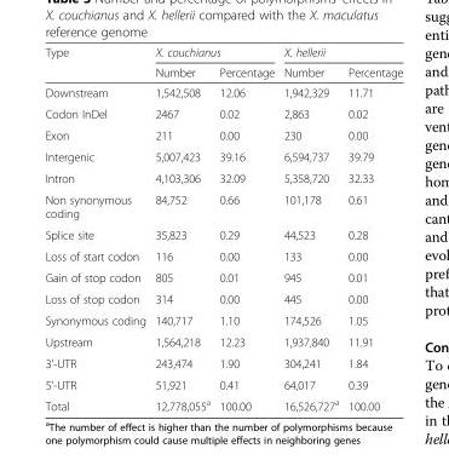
<table><thead><tr><td rowspan="2">Type</td><td colspan="2">X. couchianus</td><td colspan="2">X. hellerii</td></tr><tr><td>Number</td><td>Percentage</td><td>Number</td><td>Percentage</td></tr></thead><tbody><tr><td>Downstream</td><td>1,542,508</td><td>12.06</td><td>1,942,329</td><td>11.71</td></tr><tr><td>Codon InDel</td><td>2467</td><td>0.02</td><td>2,863</td><td>0.02</td></tr><tr><td>Exon</td><td>211</td><td>0.00</td><td>230</td><td>0.00</td></tr><tr><td>Intergenic</td><td>5,007,423</td><td>39.16</td><td>6,594,737</td><td>39.79</td></tr><tr><td>Intron</td><td>4,103,306</td><td>32.09</td><td>5,358,720</td><td>32.33</td></tr><tr><td>Non synonymous coding</td><td>84,752</td><td>0.66</td><td>101,178</td><td>0.61</td></tr><tr><td>Splice site</td><td>35,823</td><td>0.29</td><td>44,523</td><td>0.28</td></tr><tr><td>Loss of start codon</td><td>116</td><td>0.00</td><td>133</td><td>0.00</td></tr><tr><td>Gain of stop codon</td><td>805</td><td>0.01</td><td>945</td><td>0.01</td></tr><tr><td>Loss of stop codon</td><td>314</td><td>0.00</td><td>445</td><td>0.00</td></tr><tr><td>Synonymous coding</td><td>140,717</td><td>1.10</td><td>174,526</td><td>1.05</td></tr><tr><td>Upstream</td><td>1,564,218</td><td>12.23</td><td>1,937,840</td><td>11.91</td></tr><tr><td>3&#x27;-UTR</td><td>243,474</td><td>1.90</td><td>304,241</td><td>1.84</td></tr><tr><td>5&#x27;-UTR</td><td>51,921</td><td>0.41</td><td>64,017</td><td>0.39</td></tr><tr><td>Total</td><td>12,778,055<sup>a</sup></td><td>100.00</td><td>16,526,727<sup>a</sup></td><td>100.00</td></tr></tbody></table>